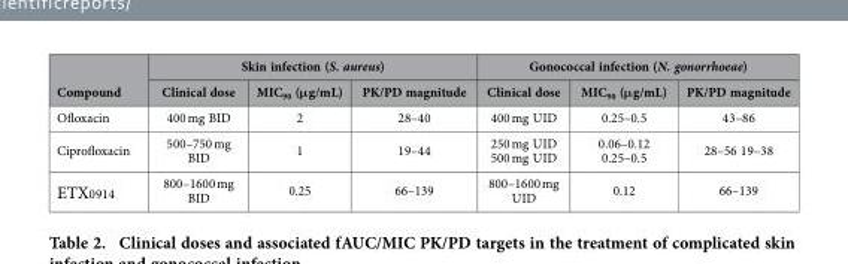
<table><thead><tr><td rowspan="2">Compound</td><td colspan="3">Skin infection (S. aureus)</td><td colspan="3">Gonococcal infection (N. gonorrhoeae)</td></tr><tr><td>Clinical dose</td><td>MIC<sub>90</sub> (μ g/mL)</td><td>PK/PD magnitude</td><td>Clinical dose</td><td>MIC<sub>90</sub> (μ g/mL)</td><td>PK/PD magnitude</td></tr></thead><tbody><tr><td>Ofloxacin</td><td>400 mg BID</td><td>2</td><td>28–40</td><td>400 mg UID</td><td>0.25–0.5</td><td>43–86</td></tr><tr><td>Ciprofloxacin</td><td>500–750 mg BID</td><td>1</td><td>19–44</td><td>250 mg UID 500 mg UID</td><td>0.06–0.12 0.25–0.5</td><td>28–56 19–38</td></tr><tr><td>ETX0914</td><td>800–1600 mg BID</td><td>0.25</td><td>66–139</td><td>800–1600 mg UID</td><td>0.12</td><td>66–139</td></tr></tbody></table>